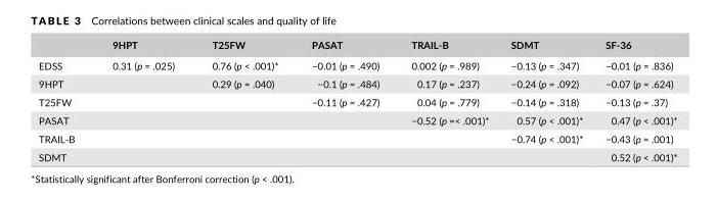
<table><thead><tr><td></td><td>9HPT</td><td>T25FW</td><td>PASAT</td><td>TRAIL- B</td><td>SDMT</td><td>SF- 36</td></tr></thead><tbody><tr><td>EDSS</td><td>0.31 (p = .025)</td><td>0.76 (p &lt; .001)*</td><td>−0.01 (p = .490)</td><td>0.002 (p = .989)</td><td>−0.13 (p = .347)</td><td>−0.01 (p = .836)</td></tr><tr><td>9HPT</td><td></td><td>0.29 (p = .040)</td><td>−0.1 (p = .484)</td><td>0.17 (p = .237)</td><td>−0.24 (p = .092)</td><td>−0.07 (p = .624)</td></tr><tr><td>T25FW</td><td></td><td></td><td>−0.11 (p = .427)</td><td>0.04 (p = .779)</td><td>−0.14 (p = .318)</td><td>−0.13 (p = .37)</td></tr><tr><td>PASAT</td><td></td><td></td><td></td><td>−0.52 (p =&lt; .001)*</td><td>0.57 (p &lt; .001)*</td><td>0.47 (p &lt; .001)*</td></tr><tr><td>TRAIL- B</td><td></td><td></td><td></td><td></td><td>−0.74 (p &lt; .001)*</td><td>−0.43 (p = .001)</td></tr><tr><td>SDMT</td><td></td><td></td><td></td><td></td><td></td><td>0.52 (p &lt; .001)*</td></tr></tbody></table>